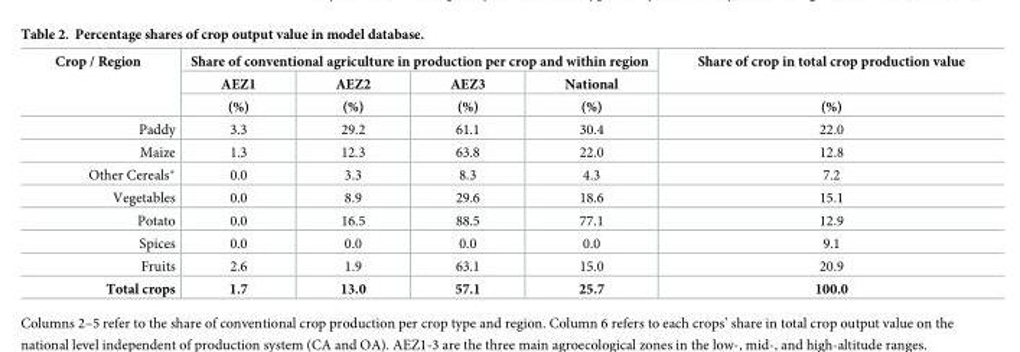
<table><thead><tr><td rowspan="3">Crop / Region</td><td colspan="4">Share of conventional agriculture in production per crop and within region</td><td rowspan="3">Share of crop in total crop production value (%)</td></tr><tr><td rowspan="2">AEZ1 (%)</td><td rowspan="2">AEZ2 (%)</td><td rowspan="2">AEZ3 (%)</td><td rowspan="2">National (%)</td></tr><tr></tr></thead><tbody><tr><td>Paddy</td><td>3.3</td><td>29.2</td><td>61.1</td><td>30.4</td><td>22.0</td></tr><tr><td>Maize</td><td>1.3</td><td>12.3</td><td>63.8</td><td>22.0</td><td>12.8</td></tr><tr><td>Other Cereals*</td><td>0.0</td><td>3.3</td><td>8.3</td><td>4.3</td><td>7.2</td></tr><tr><td>Vegetables</td><td>0.0</td><td>8.9</td><td>29.6</td><td>18.6</td><td>15.1</td></tr><tr><td>Potato</td><td>0.0</td><td>16.5</td><td>88.5</td><td>77.1</td><td>12.9</td></tr><tr><td>Spices</td><td>0.0</td><td>0.0</td><td>0.0</td><td>0.0</td><td>9.1</td></tr><tr><td>Fruits</td><td>2.6</td><td>1.9</td><td>63.1</td><td>15.0</td><td>20.9</td></tr><tr><td>Total crops</td><td>1.7</td><td>13.0</td><td>57.1</td><td>25.7</td><td>100.0</td></tr></tbody></table>